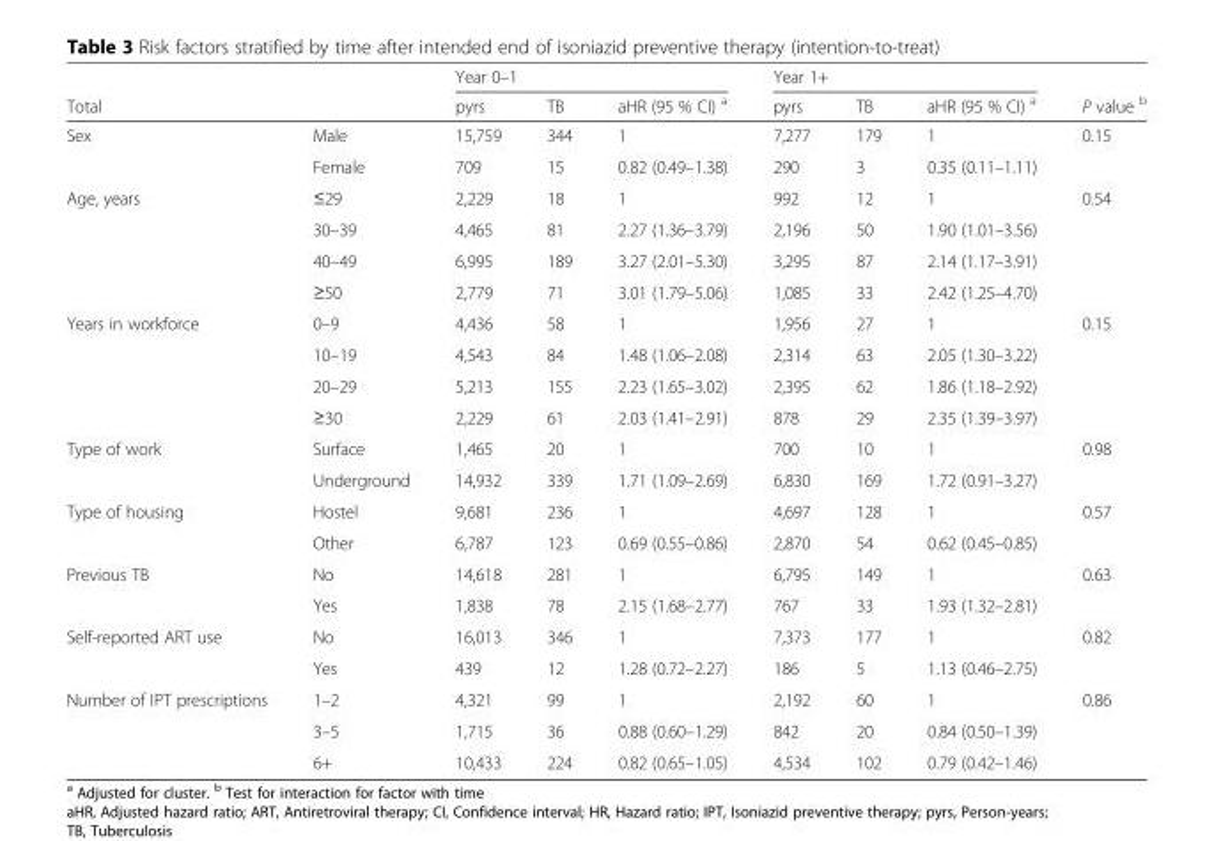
<table><thead><tr><td rowspan="2">Total</td><td rowspan="2"></td><td colspan="3">Year 0–1</td><td colspan="3">Year 1+</td><td rowspan="2">P value <sup>b</sup></td></tr><tr><td>pyrs</td><td>TB</td><td>aHR (95 % CI) <sup>a</sup></td><td>pyrs</td><td>TB</td><td>aHR (95 % CI) <sup>a</sup></td></tr></thead><tbody><tr><td rowspan="2">Sex</td><td>Male</td><td>15,759</td><td>344</td><td>1</td><td>7,277</td><td>179</td><td>1</td><td>0.15</td></tr><tr><td>Female</td><td>709</td><td>15</td><td>0.82 (0.49–1.38)</td><td>290</td><td>3</td><td>0.35 (0.11–1.11)</td><td></td></tr><tr><td rowspan="4">Age, years</td><td>≤29</td><td>2,229</td><td>18</td><td>1</td><td>992</td><td>12</td><td>1</td><td>0.54</td></tr><tr><td>30–39</td><td>4,465</td><td>81</td><td>2.27 (1.36–3.79)</td><td>2,196</td><td>50</td><td>1.90 (1.01–3.56)</td><td></td></tr><tr><td>40–49</td><td>6,995</td><td>189</td><td>3.27 (2.01–5.30)</td><td>3,295</td><td>87</td><td>2.14 (1.17–3.91)</td><td></td></tr><tr><td>≥50</td><td>2,779</td><td>71</td><td>3.01 (1.79–5.06)</td><td>1,085</td><td>33</td><td>2.42 (1.25–4.70)</td><td></td></tr><tr><td rowspan="4">Years in workforce</td><td>0–9</td><td>4,436</td><td>58</td><td>1</td><td>1,956</td><td>27</td><td>1</td><td>0.15</td></tr><tr><td>10–19</td><td>4,543</td><td>84</td><td>1.48 (1.06–2.08)</td><td>2,314</td><td>63</td><td>2.05 (1.30–3.22)</td><td></td></tr><tr><td>20–29</td><td>5,213</td><td>155</td><td>2.23 (1.65–3.02)</td><td>2,395</td><td>62</td><td>1.86 (1.18–2.92)</td><td></td></tr><tr><td>≥30</td><td>2,229</td><td>61</td><td>2.03 (1.41–2.91)</td><td>878</td><td>29</td><td>2.35 (1.39–3.97)</td><td></td></tr><tr><td rowspan="2">Type of work</td><td>Surface</td><td>1,465</td><td>20</td><td>1</td><td>700</td><td>10</td><td>1</td><td>0.98</td></tr><tr><td>Underground</td><td>14,932</td><td>339</td><td>1.71 (1.09–2.69)</td><td>6,830</td><td>169</td><td>1.72 (0.91–3.27)</td><td></td></tr><tr><td rowspan="2">Type of housing</td><td>Hostel</td><td>9,681</td><td>236</td><td>1</td><td>4,697</td><td>128</td><td>1</td><td>0.57</td></tr><tr><td>Other</td><td>6,787</td><td>123</td><td>0.69 (0.55–0.86)</td><td>2,870</td><td>54</td><td>0.62 (0.45–0.85)</td><td></td></tr><tr><td rowspan="2">Previous TB</td><td>No</td><td>14,618</td><td>281</td><td>1</td><td>6,795</td><td>149</td><td>1</td><td>0.63</td></tr><tr><td>Yes</td><td>1,838</td><td>78</td><td>2.15 (1.68–2.77)</td><td>767</td><td>33</td><td>1.93 (1.32–2.81)</td><td></td></tr><tr><td rowspan="2">Self-reported ART use</td><td>No</td><td>16,013</td><td>346</td><td>1</td><td>7,373</td><td>177</td><td>1</td><td>0.82</td></tr><tr><td>Yes</td><td>439</td><td>12</td><td>1.28 (0.72–2.27)</td><td>186</td><td>5</td><td>1.13 (0.46–2.75)</td><td></td></tr><tr><td rowspan="3">Number of IPT prescriptions</td><td>1–2</td><td>4,321</td><td>99</td><td>1</td><td>2,192</td><td>60</td><td>1</td><td>0.86</td></tr><tr><td>3–5</td><td>1,715</td><td>36</td><td>0.88 (0.60–1.29)</td><td>842</td><td>20</td><td>0.84 (0.50–1.39)</td><td></td></tr><tr><td>6+</td><td>10,433</td><td>224</td><td>0.82 (0.65–1.05)</td><td>4,534</td><td>102</td><td>0.79 (0.42–1.46)</td><td></td></tr></tbody></table>